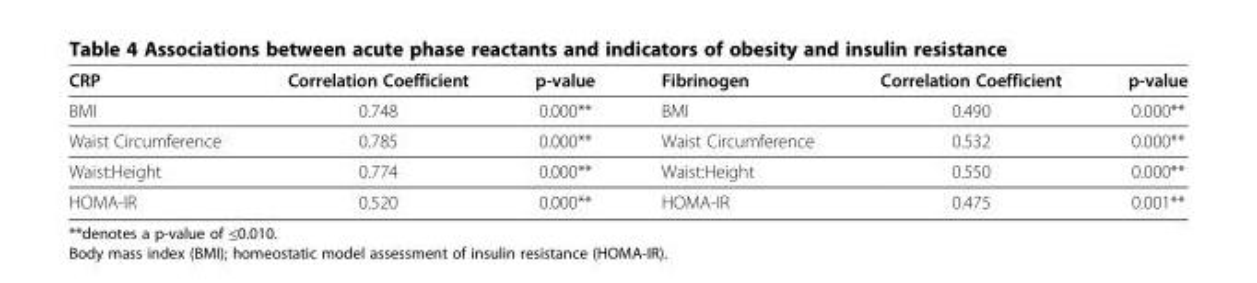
<table><thead><tr><td>CRP</td><td>Correlation Coefficient</td><td>p-value</td><td>Fibrinogen</td><td>Correlation Coefficient</td><td>p-value</td></tr></thead><tbody><tr><td>BMI</td><td>0.748</td><td>0.000**</td><td>BMI</td><td>0.490</td><td>0.000**</td></tr><tr><td>Waist Circumference</td><td>0.785</td><td>0.000**</td><td>Waist Circumference</td><td>0.532</td><td>0.000**</td></tr><tr><td>Waist:Height</td><td>0.774</td><td>0.000**</td><td>Waist:Height</td><td>0.550</td><td>0.000**</td></tr><tr><td>HOMA-IR</td><td>0.520</td><td>0.000**</td><td>HOMA-IR</td><td>0.475</td><td>0.001**</td></tr></tbody></table>